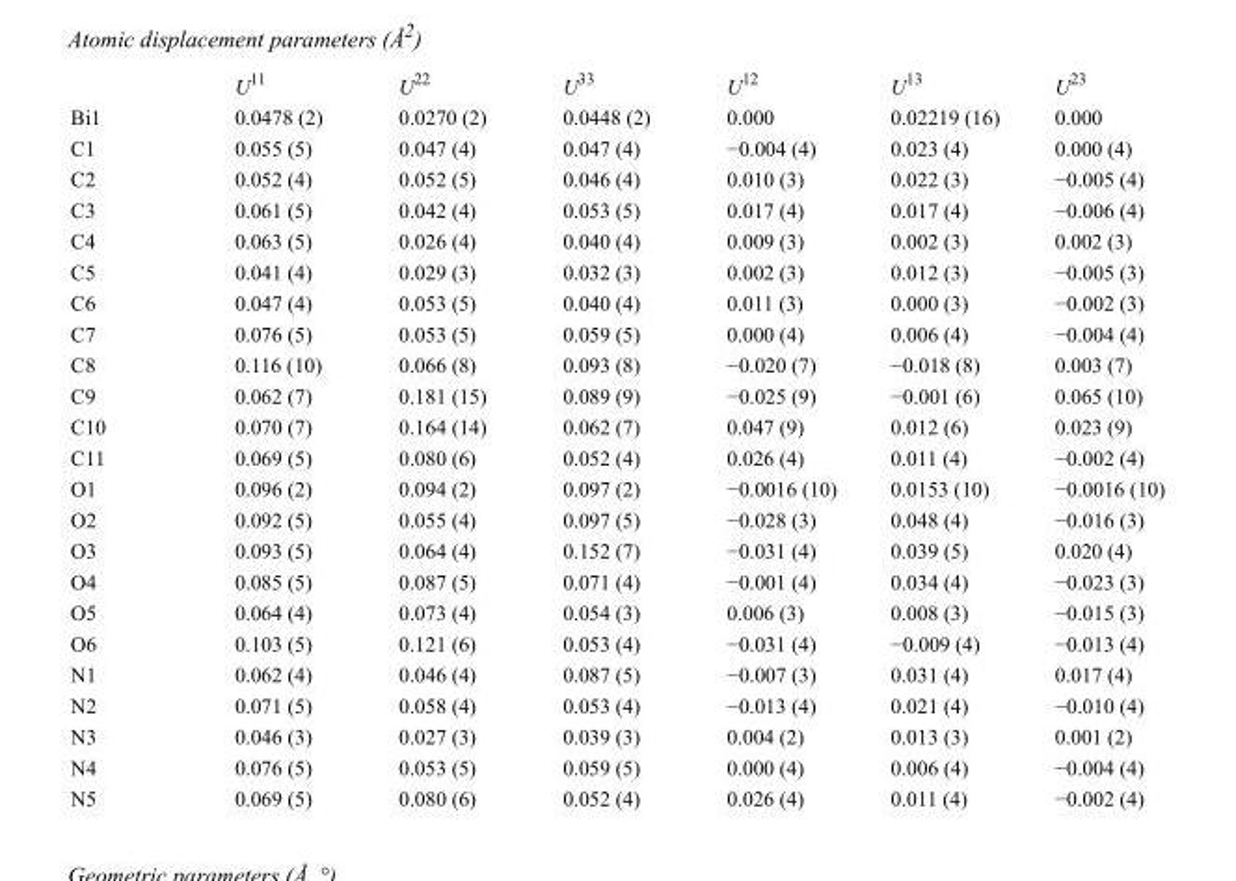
<table><thead><tr><td></td><td>U<sup>11</sup></td><td>U<sup>22</sup></td><td>U<sup>33</sup></td><td>U<sup>12</sup></td><td>U<sup>13</sup></td><td>U<sup>23</sup></td></tr></thead><tbody><tr><td>Bi1</td><td>0.0478 (2)</td><td>0.0270 (2)</td><td>0.0448 (2)</td><td>0.000</td><td>0.02219 (16)</td><td>0.000</td></tr><tr><td>C1</td><td>0.055 (5)</td><td>0.047 (4)</td><td>0.047 (4)</td><td>−0.004 (4)</td><td>0.023 (4)</td><td>0.000 (4)</td></tr><tr><td>C2</td><td>0.052 (4)</td><td>0.052 (5)</td><td>0.046 (4)</td><td>0.010 (3)</td><td>0.022 (3)</td><td>−0.005 (4)</td></tr><tr><td>C3</td><td>0.061 (5)</td><td>0.042 (4)</td><td>0.053 (5)</td><td>0.017 (4)</td><td>0.017 (4)</td><td>−0.006 (4)</td></tr><tr><td>C4</td><td>0.063 (5)</td><td>0.026 (4)</td><td>0.040 (4)</td><td>0.009 (3)</td><td>0.002 (3)</td><td>0.002 (3)</td></tr><tr><td>C5</td><td>0.041 (4)</td><td>0.029 (3)</td><td>0.032 (3)</td><td>0.002 (3)</td><td>0.012 (3)</td><td>−0.005 (3)</td></tr><tr><td>C6</td><td>0.047 (4)</td><td>0.053 (5)</td><td>0.040 (4)</td><td>0.011 (3)</td><td>0.000 (3)</td><td>−0.002 (3)</td></tr><tr><td>C7</td><td>0.076 (5)</td><td>0.053 (5)</td><td>0.059 (5)</td><td>0.000 (4)</td><td>0.006 (4)</td><td>−0.004 (4)</td></tr><tr><td>C8</td><td>0.116 (10)</td><td>0.066 (8)</td><td>0.093 (8)</td><td>−0.020 (7)</td><td>−0.018 (8)</td><td>0.003 (7)</td></tr><tr><td>C9</td><td>0.062 (7)</td><td>0.181 (15)</td><td>0.089 (9)</td><td>−0.025 (9)</td><td>−0.001 (6)</td><td>0.065 (10)</td></tr><tr><td>C10</td><td>0.070 (7)</td><td>0.164 (14)</td><td>0.062 (7)</td><td>0.047 (9)</td><td>0.012 (6)</td><td>0.023 (9)</td></tr><tr><td>C11</td><td>0.069 (5)</td><td>0.080 (6)</td><td>0.052 (4)</td><td>0.026 (4)</td><td>0.011 (4)</td><td>−0.002 (4)</td></tr><tr><td>O1</td><td>0.096 (2)</td><td>0.094 (2)</td><td>0.097 (2)</td><td>−0.0016 (10)</td><td>0.0153 (10)</td><td>−0.0016 (10)</td></tr><tr><td>O2</td><td>0.092 (5)</td><td>0.055 (4)</td><td>0.097 (5)</td><td>−0.028 (3)</td><td>0.048 (4)</td><td>−0.016 (3)</td></tr><tr><td>O3</td><td>0.093 (5)</td><td>0.064 (4)</td><td>0.152 (7)</td><td>−0.031 (4)</td><td>0.039 (5)</td><td>0.020 (4)</td></tr><tr><td>O4</td><td>0.085 (5)</td><td>0.087 (5)</td><td>0.071 (4)</td><td>−0.001 (4)</td><td>0.034 (4)</td><td>−0.023 (3)</td></tr><tr><td>O5</td><td>0.064 (4)</td><td>0.073 (4)</td><td>0.054 (3)</td><td>0.006 (3)</td><td>0.008 (3)</td><td>−0.015 (3)</td></tr><tr><td>O6</td><td>0.103 (5)</td><td>0.121 (6)</td><td>0.053 (4)</td><td>−0.031 (4)</td><td>−0.009 (4)</td><td>−0.013 (4)</td></tr><tr><td>N1</td><td>0.062 (4)</td><td>0.046 (4)</td><td>0.087 (5)</td><td>−0.007 (3)</td><td>0.031 (4)</td><td>0.017 (4)</td></tr><tr><td>N2</td><td>0.071 (5)</td><td>0.058 (4)</td><td>0.053 (4)</td><td>−0.013 (4)</td><td>0.021 (4)</td><td>−0.010 (4)</td></tr><tr><td>N3</td><td>0.046 (3)</td><td>0.027 (3)</td><td>0.039 (3)</td><td>0.004 (2)</td><td>0.013 (3)</td><td>0.001 (2)</td></tr><tr><td>N4</td><td>0.076 (5)</td><td>0.053 (5)</td><td>0.059 (5)</td><td>0.000 (4)</td><td>0.006 (4)</td><td>−0.004 (4)</td></tr><tr><td>N5</td><td>0.069 (5)</td><td>0.080 (6)</td><td>0.052 (4)</td><td>0.026 (4)</td><td>0.011 (4)</td><td>−0.002 (4)</td></tr></tbody></table>